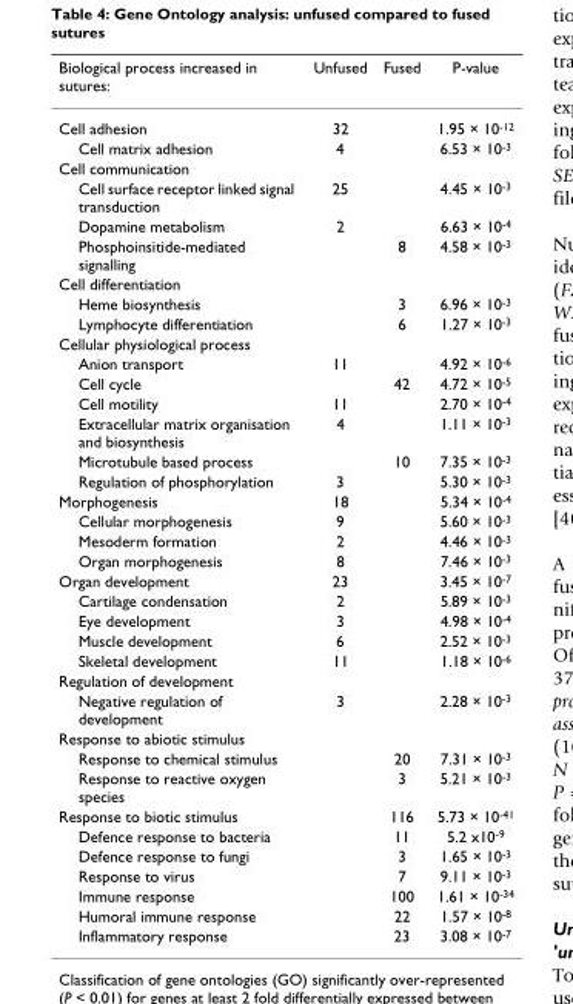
<table><thead><tr><td>Biological process increased in sutures:</td><td>Unfused</td><td>Fused</td><td>P-value</td></tr></thead><tbody><tr><td>Cell adhesion</td><td>32</td><td></td><td>1.95 × 10<sup>-12</sup></td></tr><tr><td>Cell matrix adhesion</td><td>4</td><td></td><td>6.53 × 10<sup>-3</sup></td></tr><tr><td colspan="4">Cell communication</td></tr><tr><td>Cell surface receptor linked signal transduction</td><td>25</td><td></td><td>4.45 × 10<sup>-3</sup></td></tr><tr><td>Dopamine metabolism</td><td>2</td><td></td><td>6.63 × 10<sup>-4</sup></td></tr><tr><td>Phosphoinsitide-mediated signalling</td><td></td><td>8</td><td>4.58 × 10<sup>-3</sup></td></tr><tr><td colspan="4">Cell differentiation</td></tr><tr><td>Heme biosynthesis</td><td></td><td>3</td><td>6.96 × 10<sup>-3</sup></td></tr><tr><td>Lymphocyte differentiation</td><td></td><td>6</td><td>1.27 × 10<sup>-3</sup></td></tr><tr><td colspan="4">Cellular physiological process</td></tr><tr><td>Anion transport</td><td>11</td><td></td><td>4.92 × 10<sup>-6</sup></td></tr><tr><td>Cell cycle</td><td></td><td>42</td><td>4.72 × 10<sup>-5</sup></td></tr><tr><td>Cell motility</td><td>11</td><td></td><td>2.70 × 10<sup>-4</sup></td></tr><tr><td>Extracellular matrix organisation and biosynthesis</td><td>4</td><td></td><td>1.11 × 10<sup>-3</sup></td></tr><tr><td>Microtubule based process</td><td></td><td>10</td><td>7.35 × 10<sup>-3</sup></td></tr><tr><td>Regulation of phosphorylation</td><td>3</td><td></td><td>5.30 × 10<sup>-3</sup></td></tr><tr><td>Morphogenesis</td><td>18</td><td></td><td>5.34 × 10<sup>-4</sup></td></tr><tr><td>Cellular morphogenesis</td><td>9</td><td></td><td>5.60 × 10<sup>-3</sup></td></tr><tr><td>Mesoderm formation</td><td>2</td><td></td><td>4.46 × 10<sup>-3</sup></td></tr><tr><td>Organ morphogenesis</td><td>8</td><td></td><td>7.46 × 10<sup>-3</sup></td></tr><tr><td>Organ development</td><td>23</td><td></td><td>3.45 × 10<sup>-7</sup></td></tr><tr><td>Cartilage condensation</td><td>2</td><td></td><td>5.89 × 10<sup>-3</sup></td></tr><tr><td>Eye development</td><td>3</td><td></td><td>4.98 × 10<sup>-4</sup></td></tr><tr><td>Muscle development</td><td>6</td><td></td><td>2.52 × 10<sup>-3</sup></td></tr><tr><td>Skeletal development</td><td>11</td><td></td><td>1.18 × 10<sup>-6</sup></td></tr><tr><td colspan="4">Regulation of development</td></tr><tr><td>Negative regulation of development</td><td>3</td><td></td><td>2.28 × 10<sup>-3</sup></td></tr><tr><td colspan="4">Response to abiotic stimulus</td></tr><tr><td>Response to chemical stimulus</td><td></td><td>20</td><td>7.31 × 10<sup>-3</sup></td></tr><tr><td>Response to reactive oxygen species</td><td></td><td>3</td><td>5.21 × 10<sup>-3</sup></td></tr><tr><td>Response to biotic stimulus</td><td></td><td>116</td><td>5.73 × 10<sup>-41</sup></td></tr><tr><td>Defence response to bacteria</td><td></td><td>11</td><td>5.2 x10<sup>-9</sup></td></tr><tr><td>Defence response to fungi</td><td></td><td>3</td><td>1.65 × 10<sup>-3</sup></td></tr><tr><td>Response to virus</td><td></td><td>7</td><td>9.11 × 10<sup>-3</sup></td></tr><tr><td>Immune response</td><td></td><td>100</td><td>1.61 × 10<sup>-34</sup></td></tr><tr><td>Humoral immune response</td><td></td><td>22</td><td>1.57 × 10<sup>-8</sup></td></tr><tr><td>Inflammatory response</td><td></td><td>23</td><td>3.08 × 10<sup>-7</sup></td></tr></tbody></table>